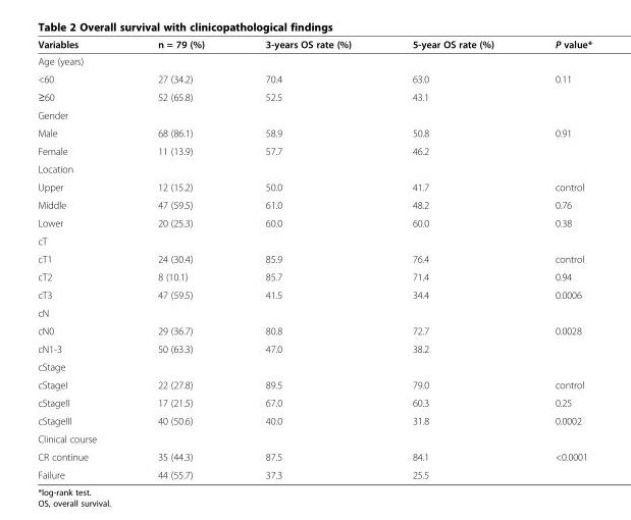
<table><thead><tr><td>Variables</td><td>n = 79 (%)</td><td>3-years OS rate (%)</td><td>5-year OS rate (%)</td><td>P value*</td></tr></thead><tbody><tr><td colspan="5">Age (years)</td></tr><tr><td>&lt;60</td><td>27 (34.2)</td><td>70.4</td><td>63.0</td><td>0.11</td></tr><tr><td>≥60</td><td>52 (65.8)</td><td>52.5</td><td>43.1</td><td></td></tr><tr><td colspan="5">Gender</td></tr><tr><td>Male</td><td>68 (86.1)</td><td>58.9</td><td>50.8</td><td>0.91</td></tr><tr><td>Female</td><td>11 (13.9)</td><td>57.7</td><td>46.2</td><td></td></tr><tr><td colspan="5">Location</td></tr><tr><td>Upper</td><td>12 (15.2)</td><td>50.0</td><td>41.7</td><td>control</td></tr><tr><td>Middle</td><td>47 (59.5)</td><td>61.0</td><td>48.2</td><td>0.76</td></tr><tr><td>Lower</td><td>20 (25.3)</td><td>60.0</td><td>60.0</td><td>0.38</td></tr><tr><td colspan="5">cT</td></tr><tr><td>cT1</td><td>24 (30.4)</td><td>85.9</td><td>76.4</td><td>control</td></tr><tr><td>cT2</td><td>8 (10.1)</td><td>85.7</td><td>71.4</td><td>0.94</td></tr><tr><td>cT3</td><td>47 (59.5)</td><td>41.5</td><td>34.4</td><td>0.0006</td></tr><tr><td colspan="5">cN</td></tr><tr><td>cN0</td><td>29 (36.7)</td><td>80.8</td><td>72.7</td><td>0.0028</td></tr><tr><td>cN1-3</td><td>50 (63.3)</td><td>47.0</td><td>38.2</td><td></td></tr><tr><td colspan="5">cStage</td></tr><tr><td>cStageI</td><td>22 (27.8)</td><td>89.5</td><td>79.0</td><td>control</td></tr><tr><td>cStageII</td><td>17 (21.5)</td><td>67.0</td><td>60.3</td><td>0.25</td></tr><tr><td>cStageIII</td><td>40 (50.6)</td><td>40.0</td><td>31.8</td><td>0.0002</td></tr><tr><td colspan="5">Clinical course</td></tr><tr><td>CR continue</td><td>35 (44.3)</td><td>87.5</td><td>84.1</td><td>&lt;0.0001</td></tr><tr><td>Failure</td><td>44 (55.7)</td><td>37.3</td><td>25.5</td><td></td></tr></tbody></table>